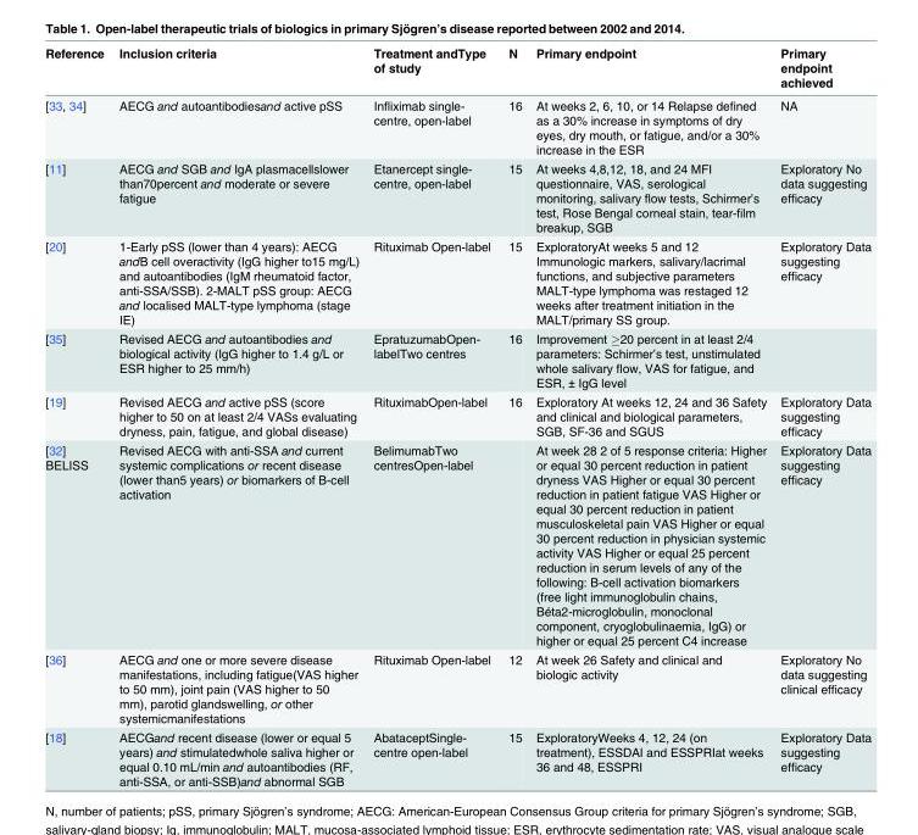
<table><thead><tr><td>Reference</td><td>Inclusion criteria</td><td>Treatment andType of study</td><td>N</td><td>Primary endpoint</td><td>Primary endpoint achieved</td></tr></thead><tbody><tr><td>[33, 34]</td><td>AECG and autoantibodiesand active pSS</td><td>Infliximab single- centre, open-label</td><td>16</td><td>At weeks 2, 6, 10, or 14 Relapse defined as a 30% increase in symptoms of dry eyes, dry mouth, or fatigue, and/or a 30% increase in the ESR</td><td>NA</td></tr><tr><td>[11]</td><td>AECG and SGB and IgA plasmacellslower than70percent and moderate or severe fatigue</td><td>Etanercept single- centre, open-label</td><td>15</td><td>At weeks 4,8,12, 18, and 24 MFI questionnaire, VAS, serological monitoring, salivary flow tests, Schirmer’s test, Rose Bengal corneal stain, tear-film breakup, SGB</td><td>Exploratory No data suggesting efficacy</td></tr><tr><td>[20]</td><td>1-Early pSS (lower than 4 years): AECG andB cell overactivity (IgG higher to15 mg/L) and autoantibodies (IgM rheumatoid factor, anti-SSA/SSB). 2-MALT pSS group: AECG and localised MALT-type lymphoma (stage IE)</td><td>Rituximab Open-label</td><td>15</td><td>ExploratoryAt weeks 5 and 12 Immunologic markers, salivary/lacrimal functions, and subjective parameters MALT-type lymphoma was restaged 12 weeks after treatment initiation in the MALT/primary SS group.</td><td>Exploratory Data suggesting efficacy</td></tr><tr><td>[35]</td><td>Revised AECG and autoantibodies and biological activity (IgG higher to 1.4 g/L or ESR higher to 25 mm/h)</td><td>EpratuzumabOpen- labelTwo centres</td><td>16</td><td>Improvement ≥20 percent in at least 2/4 parameters: Schirmer’s test, unstimulated whole salivary flow, VAS for fatigue, and ESR, ± IgG level</td><td></td></tr><tr><td>[19]</td><td>Revised AECG and active pSS (score higher to 50 on at least 2/4 VASs evaluating dryness, pain, fatigue, and global disease)</td><td>RituximabOpen-label</td><td>16</td><td>Exploratory At weeks 12, 24 and 36 Safety and clinical and biological parameters, SGB, SF-36 and SGUS</td><td>Exploratory Data suggesting efficacy</td></tr><tr><td>[32] BELISS</td><td>Revised AECG with anti-SSA and current systemic complications or recent disease (lower than5 years) or biomarkers of B-cell activation</td><td>BelimumabTwo centresOpen-label</td><td></td><td>At week 28 2 of 5 response criteria: Higher or equal 30 percent reduction in patient dryness VAS Higher or equal 30 percent reduction in patient fatigue VAS Higher or equal 30 percent reduction in patient musculoskeletal pain VAS Higher or equal 30 percent reduction in physician systemic activity VAS Higher or equal 25 percent reduction in serum levels of any of the following: B-cell activation biomarkers (free light immunoglobulin chains, Béta2-microglobulin, monoclonal component, cryoglobulinaemia, IgG) or higher or equal 25 percent C4 increase</td><td>Exploratory Data suggesting efficacy</td></tr><tr><td>[36]</td><td>AECG and one or more severe disease manifestations, including fatigue(VAS higher to 50 mm), joint pain (VAS higher to 50 mm), parotid glandswelling, or other systemicmanifestations</td><td>Rituximab Open-label</td><td>12</td><td>At week 26 Safety and clinical and biologic activity</td><td>Exploratory No data suggesting clinical efficacy</td></tr><tr><td>[18]</td><td>AECGand recent disease (lower or equal 5 years) and stimulatedwhole saliva higher or equal 0.10 mL/min and autoantibodies (RF, anti-SSA, or anti-SSB)and abnormal SGB</td><td>AbataceptSingle- centre open-label</td><td>15</td><td>ExploratoryWeeks 4, 12, 24 (on treatment), ESSDAI and ESSPRIat weeks 36 and 48, ESSPRI</td><td>Exploratory Data suggesting efficacy</td></tr></tbody></table>